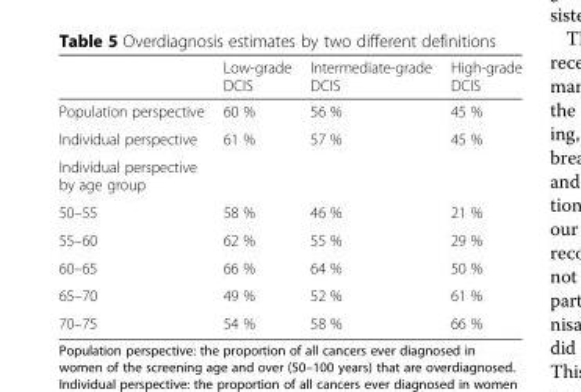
<table><thead><tr><td></td><td>Low-grade DCIS</td><td>Intermediate-grade DCIS</td><td>High-grade DCIS</td></tr></thead><tbody><tr><td>Population perspective</td><td>60 %</td><td>56 %</td><td>45 %</td></tr><tr><td>Individual perspective</td><td>61 %</td><td>57 %</td><td>45 %</td></tr><tr><td colspan="4">Individual perspective by age group</td></tr><tr><td>50–55</td><td>58 %</td><td>46 %</td><td>21 %</td></tr><tr><td>55–60</td><td>62 %</td><td>55 %</td><td>29 %</td></tr><tr><td>60–65</td><td>66 %</td><td>64 %</td><td>50 %</td></tr><tr><td>65–70</td><td>49 %</td><td>52 %</td><td>61 %</td></tr><tr><td>70–75</td><td>54 %</td><td>58 %</td><td>66 %</td></tr></tbody></table>